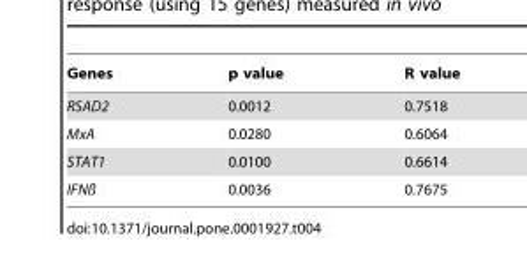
<table><thead><tr><td>Genes</td><td>p value</td><td>R value</td></tr></thead><tbody><tr><td>RSAD2</td><td>0.0012</td><td>0.7518</td></tr><tr><td>MxA</td><td>0.0280</td><td>0.6064</td></tr><tr><td>STAT1</td><td>0.0100</td><td>0.6614</td></tr><tr><td>IFNß</td><td>0.0036</td><td>0.7675</td></tr></tbody></table>